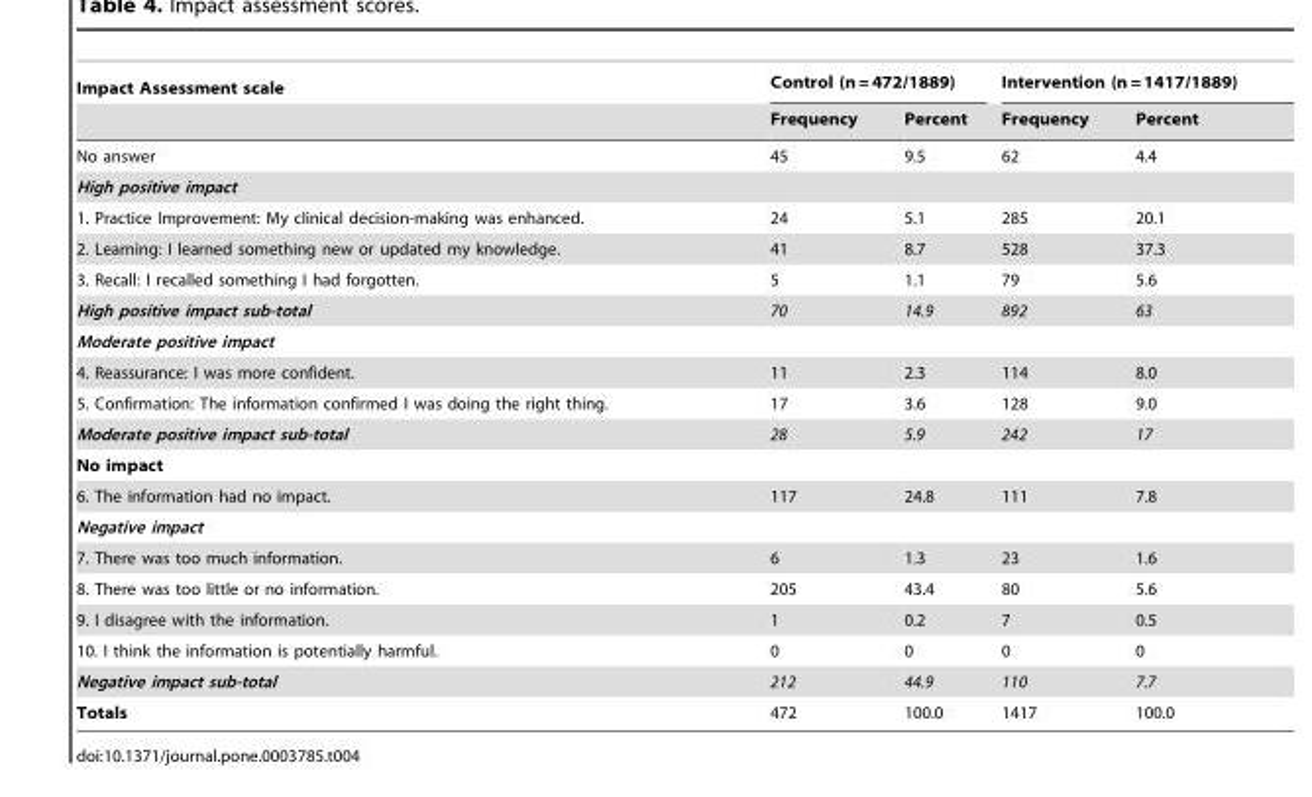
<table><thead><tr><td rowspan="2">Impact Assessment scale</td><td colspan="2">Control (n = 472/1889)</td><td colspan="2">Intervention (n = 1417/1889)</td></tr><tr><td>Frequency</td><td>Percent</td><td>Frequency</td><td>Percent</td></tr></thead><tbody><tr><td>No answer</td><td>45</td><td>9.5</td><td>62</td><td>4.4</td></tr><tr><td colspan="5">High positive impact</td></tr><tr><td>1. Practice Improvement: My clinical decision-making was enhanced.</td><td>24</td><td>5.1</td><td>285</td><td>20.1</td></tr><tr><td>2. Learning: I learned something new or updated my knowledge.</td><td>41</td><td>8.7</td><td>528</td><td>37.3</td></tr><tr><td>3. Recall: I recalled something I had forgotten.</td><td>5</td><td>1.1</td><td>79</td><td>5.6</td></tr><tr><td>High positive impact sub-total</td><td>70</td><td>14.9</td><td>892</td><td>63</td></tr><tr><td colspan="5">Moderate positive impact</td></tr><tr><td>4. Reassurance: I was more confident.</td><td>11</td><td>2.3</td><td>114</td><td>8.0</td></tr><tr><td>5. Confirmation: The information confirmed I was doing the right thing.</td><td>17</td><td>3.6</td><td>128</td><td>9.0</td></tr><tr><td>Moderate positive impact sub-total</td><td>28</td><td>5.9</td><td>242</td><td>17</td></tr><tr><td colspan="5">No impact</td></tr><tr><td>6. The information had no impact.</td><td>117</td><td>24.8</td><td>111</td><td>7.8</td></tr><tr><td colspan="5">Negative impact</td></tr><tr><td>7. There was too much information.</td><td>6</td><td>1.3</td><td>23</td><td>1.6</td></tr><tr><td>8. There was too little or no information.</td><td>205</td><td>43.4</td><td>80</td><td>5.6</td></tr><tr><td>9. I disagree with the information.</td><td>1</td><td>0.2</td><td>7</td><td>0.5</td></tr><tr><td>10. I think the information is potentially harmful.</td><td>0</td><td>0</td><td>0</td><td>0</td></tr><tr><td>Negative impact sub-total</td><td>212</td><td>44.9</td><td>110</td><td>7.7</td></tr><tr><td>Totals</td><td>472</td><td>100.0</td><td>1417</td><td>100.0</td></tr></tbody></table>